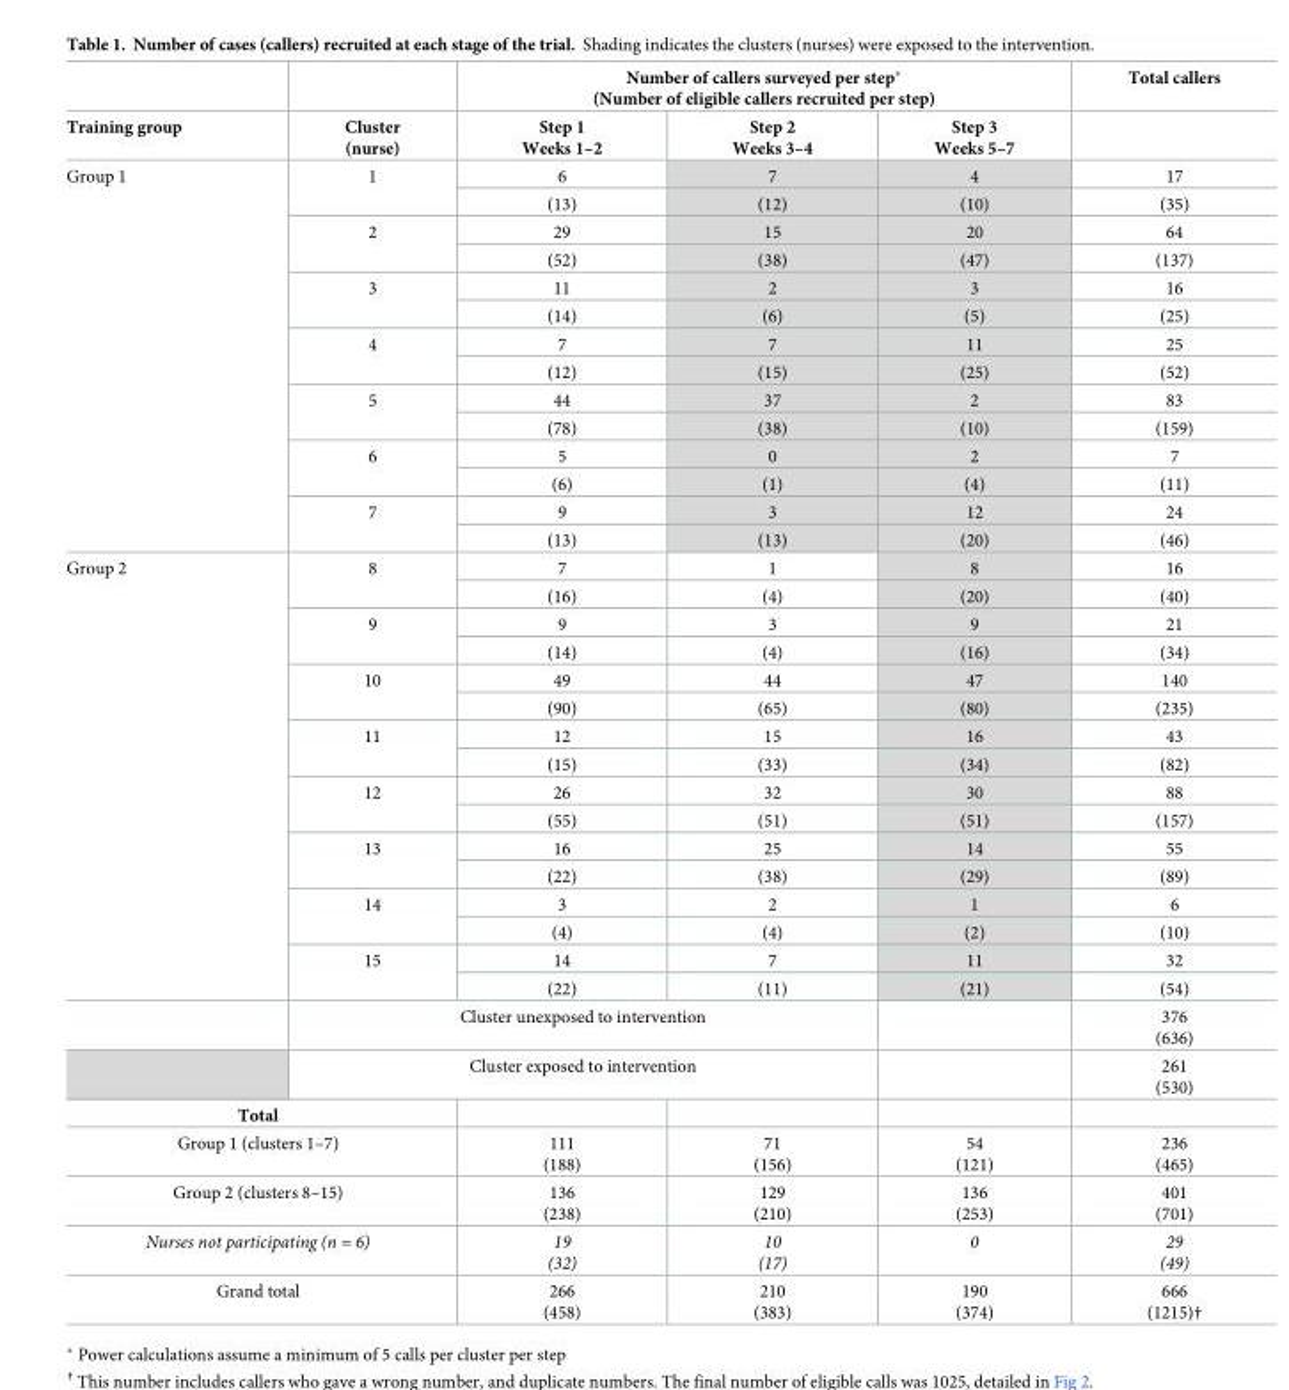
<table><thead><tr><td rowspan="2">Training group</td><td rowspan="2">Cluster (nurse)</td><td colspan="3">Number of callers surveyed per step* (Number of eligible callers recruited per step)</td><td rowspan="2">Total callers</td></tr><tr><td>Step 1 Weeks 1–2</td><td>Step 2 Weeks 3–4</td><td>Step 3 Weeks 5–7</td></tr></thead><tbody><tr><td rowspan="14">Group 1</td><td rowspan="2">1</td><td>6</td><td>7</td><td>4</td><td>17</td></tr><tr><td>(13)</td><td>(12)</td><td>(10)</td><td>(35)</td></tr><tr><td rowspan="2">2</td><td>29</td><td>15</td><td>20</td><td>64</td></tr><tr><td>(52)</td><td>(38)</td><td>(47)</td><td>(137)</td></tr><tr><td rowspan="2">3</td><td>11</td><td>2</td><td>3</td><td>16</td></tr><tr><td>(14)</td><td>(6)</td><td>(5)</td><td>(25)</td></tr><tr><td rowspan="2">4</td><td>7</td><td>7</td><td>11</td><td>25</td></tr><tr><td>(12)</td><td>(15)</td><td>(25)</td><td>(52)</td></tr><tr><td rowspan="2">5</td><td>44</td><td>37</td><td>2</td><td>83</td></tr><tr><td>(78)</td><td>(38)</td><td>(10)</td><td>(159)</td></tr><tr><td rowspan="2">6</td><td>5</td><td>0</td><td>2</td><td>7</td></tr><tr><td>(6)</td><td>(1)</td><td>(4)</td><td>(11)</td></tr><tr><td rowspan="2">7</td><td>9</td><td>3</td><td>12</td><td>24</td></tr><tr><td>(13)</td><td>(13)</td><td>(20)</td><td>(46)</td></tr><tr><td rowspan="18">Group 2</td><td rowspan="2">8</td><td>7</td><td>1</td><td>8</td><td>16</td></tr><tr><td>(16)</td><td>(4)</td><td>(20)</td><td>(40)</td></tr><tr><td rowspan="2">9</td><td>9</td><td>3</td><td>9</td><td>21</td></tr><tr><td>(14)</td><td>(4)</td><td>(16)</td><td>(34)</td></tr><tr><td rowspan="2">10</td><td>49</td><td>44</td><td>47</td><td>140</td></tr><tr><td>(90)</td><td>(65)</td><td>(80)</td><td>(235)</td></tr><tr><td rowspan="2">11</td><td>12</td><td>15</td><td>16</td><td>43</td></tr><tr><td>(15)</td><td>(33)</td><td>(34)</td><td>(82)</td></tr><tr><td rowspan="2">12</td><td>26</td><td>32</td><td>30</td><td>88</td></tr><tr><td>(55)</td><td>(51)</td><td>(51)</td><td>(157)</td></tr><tr><td rowspan="2">13</td><td>16</td><td>25</td><td>14</td><td>55</td></tr><tr><td>(22)</td><td>(38)</td><td>(29)</td><td>(89)</td></tr><tr><td rowspan="2">14</td><td>3</td><td>2</td><td>1</td><td>6</td></tr><tr><td>(4)</td><td>(4)</td><td>(2)</td><td>(10)</td></tr><tr><td rowspan="2">15</td><td>14</td><td>7</td><td>11</td><td>32</td></tr><tr><td>(22)</td><td>(11)</td><td>(21)</td><td>(54)</td></tr><tr><td colspan="3">Cluster unexposed to intervention</td><td></td><td>376 (636)</td></tr><tr><td colspan="3">Cluster exposed to intervention</td><td></td><td>261 (530)</td></tr><tr><td colspan="6">Total</td></tr><tr><td colspan="2">Group 1 (clusters 1–7)</td><td>111 (188)</td><td>71 (156)</td><td>54 (121)</td><td>236 (465)</td></tr><tr><td colspan="2">Group 2 (clusters 8–15)</td><td>136 (238)</td><td>129 (210)</td><td>136 (253)</td><td>401 (701)</td></tr><tr><td colspan="2">Nurses not participating (n = 6)</td><td>19 (32)</td><td>10 (17)</td><td>0</td><td>29 (49)</td></tr><tr><td colspan="2">Grand total</td><td>266 (458)</td><td>210 (383)</td><td>190 (374)</td><td>666 (1215)†</td></tr></tbody></table>